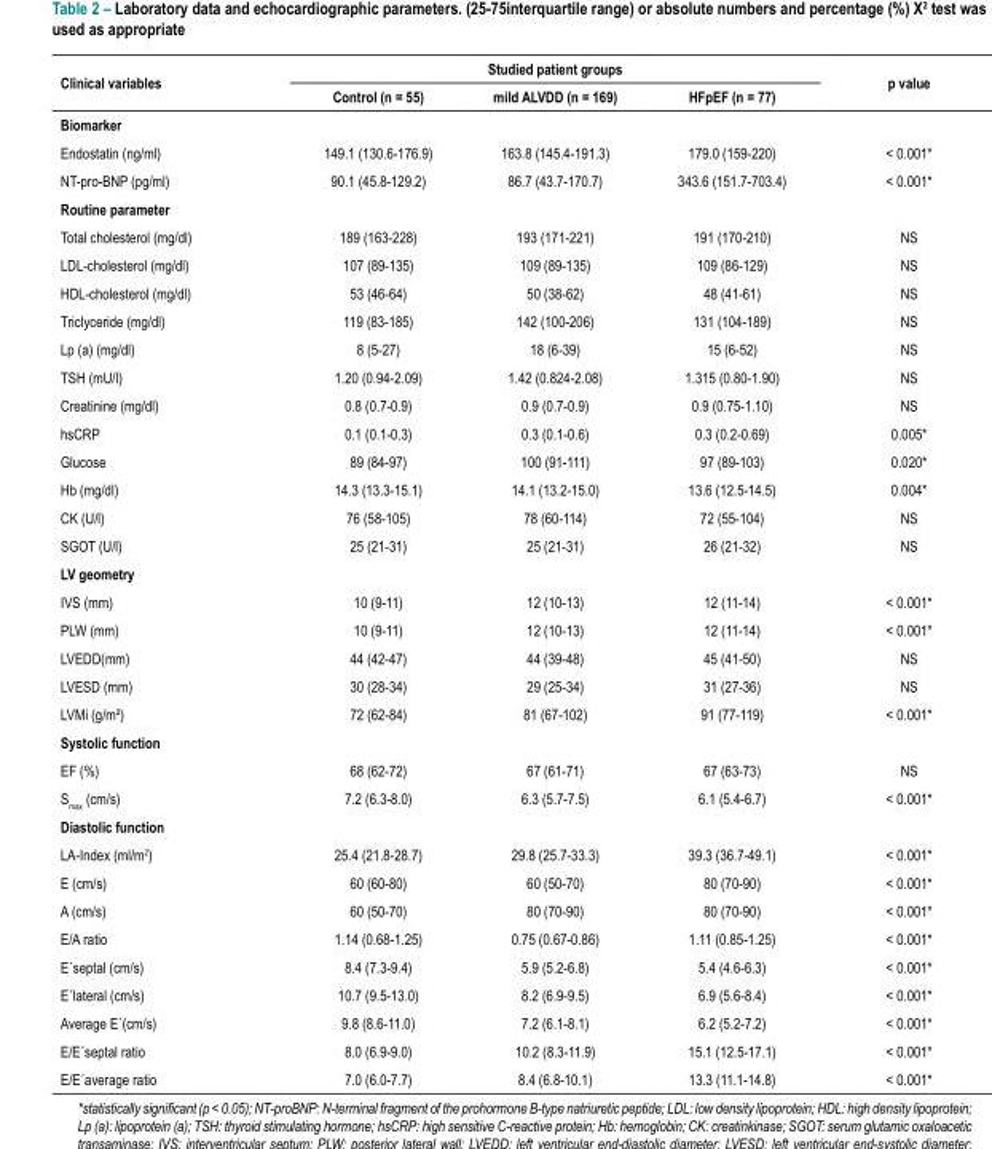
<table><thead><tr><td rowspan="2">Clinical variables</td><td colspan="3">Studied patient groups</td><td rowspan="2">p value</td></tr><tr><td>Control (n = 55)</td><td>mild ALVDD (n = 169)</td><td>HFpEF (n = 77)</td></tr></thead><tbody><tr><td colspan="5">Biomarker</td></tr><tr><td>Endostatin (ng/ml)</td><td>149.1 (130.6-176.9)</td><td>163.8 (145.4-191.3)</td><td>179.0 (159-220)</td><td>&lt; 0.001*</td></tr><tr><td>NT-pro-BNP (pg/ml)</td><td>90.1 (45.8-129.2)</td><td>86.7 (43.7-170.7)</td><td>343.6 (151.7-703.4)</td><td>&lt; 0.001*</td></tr><tr><td colspan="5">Routine parameter</td></tr><tr><td>Total cholesterol (mg/dl)</td><td>189 (163-228)</td><td>193 (171-221)</td><td>191 (170-210)</td><td>NS</td></tr><tr><td>LDL-cholesterol (mg/dl)</td><td>107 (89-135)</td><td>109 (89-135)</td><td>109 (86-129)</td><td>NS</td></tr><tr><td>HDL-cholesterol (mg/dl)</td><td>53 (46-64)</td><td>50 (38-62)</td><td>48 (41-61)</td><td>NS</td></tr><tr><td>Triclyceride (mg/dl)</td><td>119 (83-185)</td><td>142 (100-206)</td><td>131 (104-189)</td><td>NS</td></tr><tr><td>Lp (a) (mg/dl)</td><td>8 (5-27)</td><td>18 (6-39)</td><td>15 (6-52)</td><td>NS</td></tr><tr><td>TSH (mU/l)</td><td>1.20 (0.94-2.09)</td><td>1.42 (0.824-2.08)</td><td>1.315 (0.80-1.90)</td><td>NS</td></tr><tr><td>Creatinine (mg/dl)</td><td>0.8 (0.7-0.9)</td><td>0.9 (0.7-0.9)</td><td>0.9 (0.75-1.10)</td><td>NS</td></tr><tr><td>hsCRP</td><td>0.1 (0.1-0.3)</td><td>0.3 (0.1-0.6)</td><td>0.3 (0.2-0.69)</td><td>0.005*</td></tr><tr><td>Glucose</td><td>89 (84-97)</td><td>100 (91-111)</td><td>97 (89-103)</td><td>0.020*</td></tr><tr><td>Hb (mg/dl)</td><td>14.3 (13.3-15.1)</td><td>14.1 (13.2-15.0)</td><td>13.6 (12.5-14.5)</td><td>0.004*</td></tr><tr><td>CK (U/l)</td><td>76 (58-105)</td><td>78 (60-114)</td><td>72 (55-104)</td><td>NS</td></tr><tr><td>SGOT (U/l)</td><td>25 (21-31)</td><td>25 (21-31)</td><td>26 (21-32)</td><td>NS</td></tr><tr><td colspan="5">LV geometry</td></tr><tr><td>IVS (mm)</td><td>10 (9-11)</td><td>12 (10-13)</td><td>12 (11-14)</td><td>&lt; 0.001*</td></tr><tr><td>PLW (mm)</td><td>10 (9-11)</td><td>12 (10-13)</td><td>12 (11-14)</td><td>&lt; 0.001*</td></tr><tr><td>LVEDD(mm)</td><td>44 (42-47)</td><td>44 (39-48)</td><td>45 (41-50)</td><td>NS</td></tr><tr><td>LVESD (mm)</td><td>30 (28-34)</td><td>29 (25-34)</td><td>31 (27-36)</td><td>NS</td></tr><tr><td>LVMi (g/m²)</td><td>72 (62-84)</td><td>81 (67-102)</td><td>91 (77-119)</td><td>&lt; 0.001*</td></tr><tr><td colspan="5">Systolic function</td></tr><tr><td>EF (%)</td><td>68 (62-72)</td><td>67 (61-71)</td><td>67 (63-73)</td><td>NS</td></tr><tr><td>S<sub>max</sub> (cm/s)</td><td>7.2 (6.3-8.0)</td><td>6.3 (5.7-7.5)</td><td>6.1 (5.4-6.7)</td><td>&lt; 0.001*</td></tr><tr><td colspan="5">Diastolic function</td></tr><tr><td>LA-Index (ml/m<sup>2</sup>)</td><td>25.4 (21.8-28.7)</td><td>29.8 (25.7-33.3)</td><td>39.3 (36.7-49.1)</td><td>&lt; 0.001*</td></tr><tr><td>E (cm/s)</td><td>60 (60-80)</td><td>60 (50-70)</td><td>80 (70-90)</td><td>&lt; 0.001*</td></tr><tr><td>A (cm/s)</td><td>60 (50-70)</td><td>80 (70-90)</td><td>80 (70-90)</td><td>&lt; 0.001*</td></tr><tr><td>E/A ratio</td><td>1.14 (0.68-1.25)</td><td>0.75 (0.67-0.86)</td><td>1.11 (0.85-1.25)</td><td>&lt; 0.001*</td></tr><tr><td>E´septal (cm/s)</td><td>8.4 (7.3-9.4)</td><td>5.9 (5.2-6.8)</td><td>5.4 (4.6-6.3)</td><td>&lt; 0.001*</td></tr><tr><td>E´lateral (cm/s)</td><td>10.7 (9.5-13.0)</td><td>8.2 (6.9-9.5)</td><td>6.9 (5.6-8.4)</td><td>&lt; 0.001*</td></tr><tr><td>Average E´(cm/s)</td><td>9.8 (8.6-11.0)</td><td>7.2 (6.1-8.1)</td><td>6.2 (5.2-7.2)</td><td>&lt; 0.001*</td></tr><tr><td>E/E´septal ratio</td><td>8.0 (6.9-9.0)</td><td>10.2 (8.3-11.9)</td><td>15.1 (12.5-17.1)</td><td>&lt; 0.001*</td></tr><tr><td>E/E´average ratio</td><td>7.0 (6.0-7.7)</td><td>8.4 (6.8-10.1)</td><td>13.3 (11.1-14.8)</td><td>&lt; 0.001*</td></tr></tbody></table>